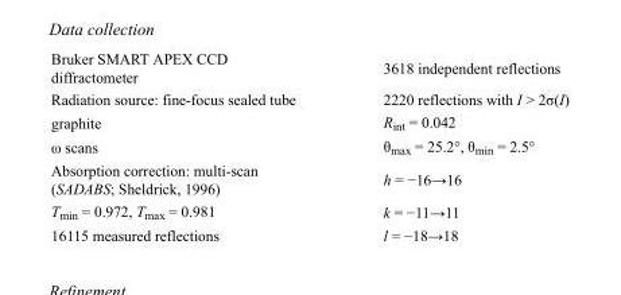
<table><tbody><tr><td>Bruker SMART APEX CCD diffractometer</td><td>3618 independent reflections</td></tr><tr><td>Radiation source: fine-focus sealed tube</td><td>2220 reflections with I &gt; 2σ(I)</td></tr><tr><td>graphite</td><td>R<sub>int</sub> = 0.042</td></tr><tr><td>ω scans</td><td>θ<sub>max</sub> = 25.2°, θ<sub>min</sub> = 2.5°</td></tr><tr><td>Absorption correction: multi-scan (SADABS; Sheldrick, 1996)</td><td>h = −16→16</td></tr><tr><td>T<sub>min</sub> = 0.972, T<sub>max</sub> = 0.981</td><td>k = −11→11</td></tr><tr><td>16115 measured reflections</td><td>l = −18→18</td></tr></tbody></table>